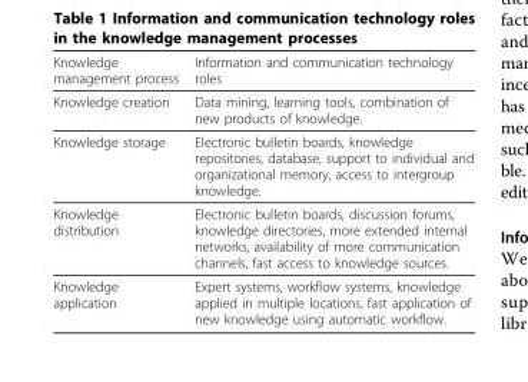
<table><thead><tr><td>Knowledge management process</td><td>Information and communication technology roles</td></tr></thead><tbody><tr><td>Knowledge creation</td><td>Data mining, learning tools, combination of new products of knowledge.</td></tr><tr><td>Knowledge storage</td><td>Electronic bulletin boards, knowledge repositories, database, support to individual and organizational memory, access to intergroup knowledge.</td></tr><tr><td>Knowledge distribution</td><td>Electronic bulletin boards, discussion forums, knowledge directories, more extended internal networks, availability of more communication channels, fast access to knowledge sources.</td></tr><tr><td>Knowledge application</td><td>Expert systems, workflow systems, knowledge applied in multiple locations, fast application of new knowledge using automatic workflow.</td></tr></tbody></table>